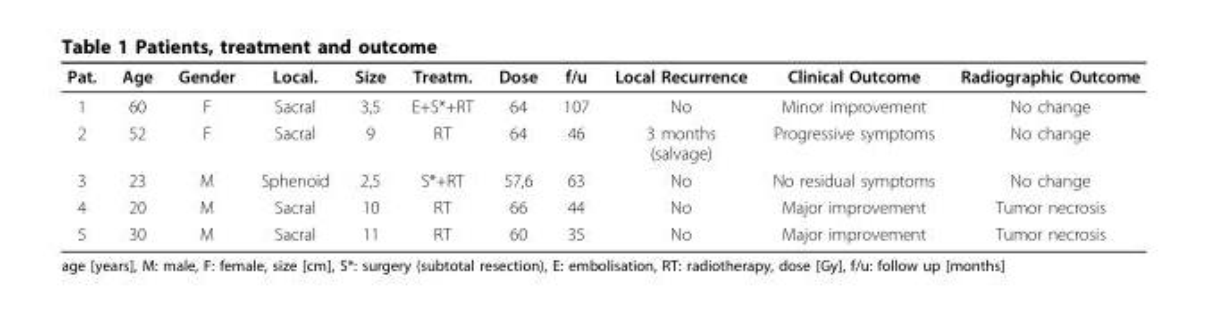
<table><thead><tr><td>Pat.</td><td>Age</td><td>Gender</td><td>Local.</td><td>Size</td><td>Treatm.</td><td>Dose</td><td>f/u</td><td>Local Recurrence</td><td>Clinical Outcome</td><td>Radiographic Outcome</td></tr></thead><tbody><tr><td>1</td><td>60</td><td>F</td><td>Sacral</td><td>3,5</td><td>E+S*+RT</td><td>64</td><td>107</td><td>No</td><td>Minor improvement</td><td>No change</td></tr><tr><td>2</td><td>52</td><td>F</td><td>Sacral</td><td>9</td><td>RT</td><td>64</td><td>46</td><td>3 months (salvage)</td><td>Progressive symptoms</td><td>No change</td></tr><tr><td>3</td><td>23</td><td>M</td><td>Sphenoid</td><td>2,5</td><td>S*+RT</td><td>57,6</td><td>63</td><td>No</td><td>No residual symptoms</td><td>No change</td></tr><tr><td>4</td><td>20</td><td>M</td><td>Sacral</td><td>10</td><td>RT</td><td>66</td><td>44</td><td>No</td><td>Major improvement</td><td>Tumor necrosis</td></tr><tr><td>5</td><td>30</td><td>M</td><td>Sacral</td><td>11</td><td>RT</td><td>60</td><td>35</td><td>No</td><td>Major improvement</td><td>Tumor necrosis</td></tr></tbody></table>